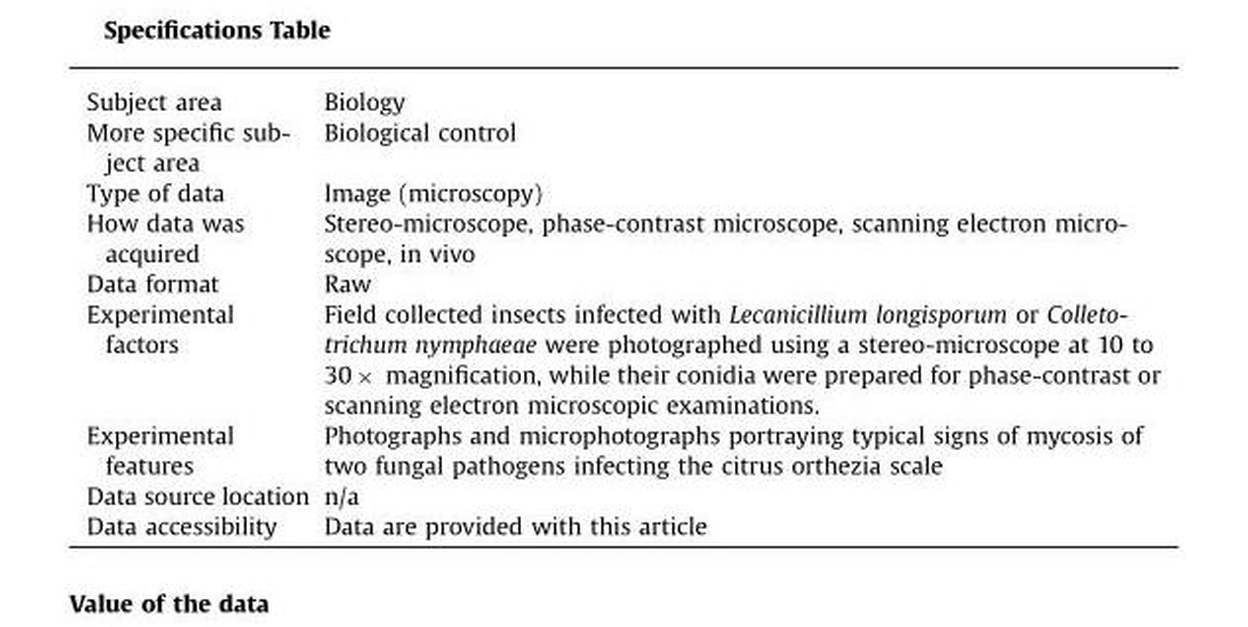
<table><tbody><tr><td>Subject area</td><td>Biology</td></tr><tr><td>More specific sub- ject area</td><td>Biological control</td></tr><tr><td>Type of data</td><td>Image (microscopy)</td></tr><tr><td>How data was acquired</td><td>Stereo-microscope, phase-contrast microscope, scanning electron micro- scope, in vivo</td></tr><tr><td>Data format</td><td>Raw</td></tr><tr><td>Experimental factors</td><td>Field collected insects infected with Lecanicillium longisporum or Colleto- trichum nymphaeae were photographed using a stereo-microscope at 10 to 30 � magnification, while their conidia were prepared for phase-contrast or scanning electron microscopic examinations.</td></tr><tr><td>Experimental features</td><td>Photographs and microphotographs portraying typical signs of mycosis of two fungal pathogens infecting the citrus orthezia scale</td></tr><tr><td>Data source location</td><td>n/a</td></tr><tr><td>Data accessibility</td><td>Data are provided with this article</td></tr></tbody></table>